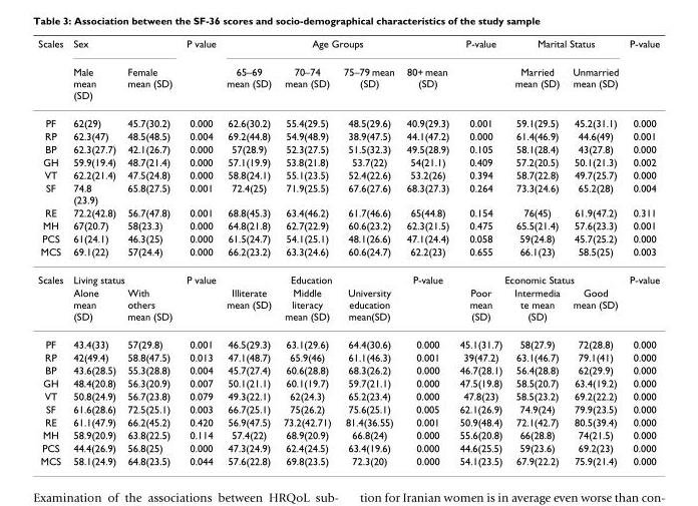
<table><thead><tr><td rowspan="2">Scales</td><td colspan="2">Sex</td><td rowspan="2">P value</td><td colspan="4">Age Groups</td><td rowspan="2">P-value</td><td colspan="2">Marital Status</td><td rowspan="2">P-value</td></tr><tr><td>Male mean (SD)</td><td>Female mean (SD)</td><td>65–69 mean (SD)</td><td>70–74 mean (SD)</td><td>75–79 mean (SD)</td><td>80+ mean (SD)</td><td>Married mean (SD)</td><td>Unmarried mean (SD)</td></tr></thead><tbody><tr><td>PF</td><td>62(29)</td><td>45.7(30.2)</td><td>0.000</td><td>62.6(30.2)</td><td>55.4(29.5)</td><td>48.5(29.6)</td><td>40.9(29.3)</td><td>0.001</td><td>59.1(29.5)</td><td>45.2(31.1)</td><td>0.000</td></tr><tr><td>RP</td><td>62.3(47)</td><td>48.5(48.5)</td><td>0.004</td><td>69.2(44.8)</td><td>54.9(48.9)</td><td>38.9(47.5)</td><td>44.1(47.2)</td><td>0.000</td><td>61.4(46.9)</td><td>44.6(49)</td><td>0.001</td></tr><tr><td>BP</td><td>62.3(27.7)</td><td>42.1(26.7)</td><td>0.000</td><td>57(28.9)</td><td>52.3(27.5)</td><td>51.5(32.3)</td><td>49.5(28.9)</td><td>0.105</td><td>58.1(28.4)</td><td>43(27.8)</td><td>0.000</td></tr><tr><td>GH</td><td>59.9(19.4)</td><td>48.7(21.4)</td><td>0.000</td><td>57.1(19.9)</td><td>53.8(21.8)</td><td>53.7(22)</td><td>54(21.1)</td><td>0.409</td><td>57.2(20.5)</td><td>50.1(21.3)</td><td>0.002</td></tr><tr><td>VT</td><td>62.2(21.4)</td><td>47.5(24.8)</td><td>0.000</td><td>58.8(24.1)</td><td>55.1(23.5)</td><td>52.4(22.6)</td><td>53.2(26)</td><td>0.394</td><td>58.7(22.8)</td><td>49.7(25.7)</td><td>0.000</td></tr><tr><td>SF</td><td>74.8 (23.9)</td><td>65.8(27.5)</td><td>0.001</td><td>72.4(25)</td><td>71.9(25.5)</td><td>67.6(27.6)</td><td>68.3(27.3)</td><td>0.264</td><td>73.3(24.6)</td><td>65.2(28)</td><td>0.004</td></tr><tr><td>RE</td><td>72.2(42.8)</td><td>56.7(47.8)</td><td>0.001</td><td>68.8(45.3)</td><td>63.4(46.2)</td><td>61.7(46.6)</td><td>65(44.8)</td><td>0.154</td><td>76(45)</td><td>61.9(47.2)</td><td>0.311</td></tr><tr><td>MH</td><td>67(20.7)</td><td>58(23.3)</td><td>0.000</td><td>64.8(21.8)</td><td>62.7(22.9)</td><td>60.6(23.2)</td><td>62.3(21.5)</td><td>0.475</td><td>65.5(21.4)</td><td>57.6(23.3)</td><td>0.001</td></tr><tr><td>PCS</td><td>61(24.1)</td><td>46.3(25)</td><td>0.000</td><td>61.5(24.7)</td><td>54.1(25.1)</td><td>48.1(26.6)</td><td>47.1(24.4)</td><td>0.058</td><td>59(24.8)</td><td>45.7(25.2)</td><td>0.000</td></tr><tr><td>MCS</td><td>69.1(22)</td><td>57(24.4)</td><td>0.000</td><td>66.2(23.2)</td><td>63.3(24.6)</td><td>60.6(24.7)</td><td>62.2(23)</td><td>0.655</td><td>66.1(23)</td><td>58.5(25)</td><td>0.003</td></tr><tr><td rowspan="2">Scales</td><td colspan="2">Living status</td><td>P value</td><td colspan="3">Education</td><td>P-value</td><td colspan="3">Economic Status</td><td>P-value</td></tr><tr><td>Alone mean (SD)</td><td>With others mean (SD)</td><td></td><td>Illiterate mean (SD)</td><td>Middle literacy mean (SD)</td><td>University education mean(SD)</td><td></td><td>Poor mean (SD)</td><td>Intermedia te mean (SD)</td><td>Good mean (SD)</td><td></td></tr><tr><td>PF</td><td>43.4(33)</td><td>57(29.8)</td><td>0.001</td><td>46.5(29.3)</td><td>63.1(29.6)</td><td>64.4(30.6)</td><td>0.000</td><td>45.1(31.7)</td><td>58(27.9)</td><td>72(28.8)</td><td>0.000</td></tr><tr><td>RP</td><td>42(49.4)</td><td>58.8(47.5)</td><td>0.013</td><td>47.1(48.7)</td><td>65.9(46)</td><td>61.1(46.3)</td><td>0.001</td><td>39(47.2)</td><td>63.1(46.7)</td><td>79.1(41)</td><td>0.000</td></tr><tr><td>BP</td><td>43.6(28.5)</td><td>55.3(28.8)</td><td>0.004</td><td>45.7(27.4)</td><td>60.6(28.8)</td><td>68.3(26.2)</td><td>0.000</td><td>46.7(28.1)</td><td>56.4(28.8)</td><td>62(29.9)</td><td>0.000</td></tr><tr><td>GH</td><td>48.4(20.8)</td><td>56.3(20.9)</td><td>0.007</td><td>50.1(21.1)</td><td>60.1(19.7)</td><td>59.7(21.1)</td><td>0.000</td><td>47.5(19.8)</td><td>58.5(20.7)</td><td>63.4(19.2)</td><td>0.000</td></tr><tr><td>VT</td><td>50.8(24.9)</td><td>56.7(23.8)</td><td>0.079</td><td>49.3(22.1)</td><td>62(24.3)</td><td>65.2(23.4)</td><td>0.000</td><td>47.8(23)</td><td>58.5(23.2)</td><td>69.2(22.2)</td><td>0.000</td></tr><tr><td>SF</td><td>61.6(28.6)</td><td>72.5(25.1)</td><td>0.003</td><td>66.7(25.1)</td><td>75(26.2)</td><td>75.6(25.1)</td><td>0.005</td><td>62.1(26.9)</td><td>74.9(24)</td><td>79.9(23.5)</td><td>0.000</td></tr><tr><td>RE</td><td>61.1(47.9)</td><td>66.2(45.2)</td><td>0.420</td><td>56.9(47.5)</td><td>73.2(42.71)</td><td>81.4(36.55)</td><td>0.001</td><td>50.9(48.4)</td><td>72.1(42.7)</td><td>80.5(39.4)</td><td>0.000</td></tr><tr><td>MH</td><td>58.9(20.9)</td><td>63.8(22.5)</td><td>0.114</td><td>57.4(22)</td><td>68.9(20.9)</td><td>66.8(24)</td><td>0.000</td><td>55.6(20.8)</td><td>66(28.8)</td><td>74(21.5)</td><td>0.000</td></tr><tr><td>PCS</td><td>44.4(26.9)</td><td>56.8(25)</td><td>0.000</td><td>47.3(24.9)</td><td>62.4(24.5)</td><td>63.4(19.6)</td><td>0.000</td><td>44.6(25.5)</td><td>59(23.6)</td><td>69.2(23)</td><td>0.000</td></tr><tr><td>MCS</td><td>58.1(24.9)</td><td>64.8(23.5)</td><td>0.044</td><td>57.6(22.8)</td><td>69.8(23.5)</td><td>72.3(20)</td><td>0.000</td><td>54.1(23.5)</td><td>67.9(22.2)</td><td>75.9(21.4)</td><td>0.000</td></tr></tbody></table>